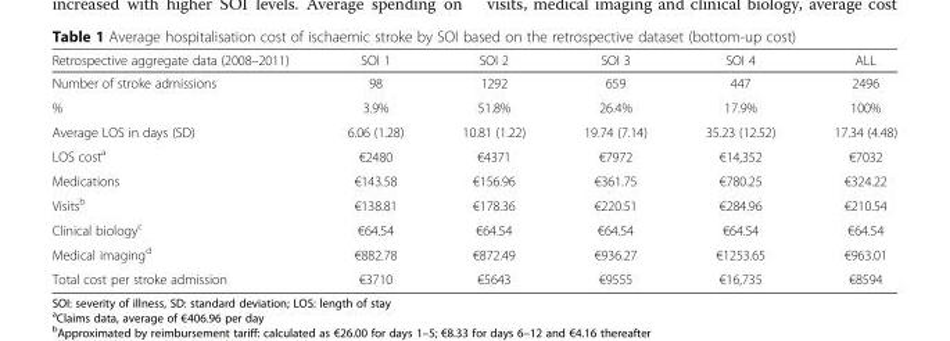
<table><thead><tr><td>Retrospective aggregate data (2008–2011)</td><td>SOI 1</td><td>SOI 2</td><td>SOI 3</td><td>SOI 4</td><td>ALL</td></tr></thead><tbody><tr><td>Number of stroke admissions</td><td>98</td><td>1292</td><td>659</td><td>447</td><td>2496</td></tr><tr><td>%</td><td>3.9%</td><td>51.8%</td><td>26.4%</td><td>17.9%</td><td>100%</td></tr><tr><td>Average LOS in days (SD)</td><td>6.06 (1.28)</td><td>10.81 (1.22)</td><td>19.74 (7.14)</td><td>35.23 (12.52)</td><td>17.34 (4.48)</td></tr><tr><td>LOS cost<sup>a</sup></td><td>€2480</td><td>€4371</td><td>€7972</td><td>€14,352</td><td>€7032</td></tr><tr><td>Medications</td><td>€143.58</td><td>€156.96</td><td>€361.75</td><td>€780.25</td><td>€324.22</td></tr><tr><td>Visits<sup>b</sup></td><td>€138.81</td><td>€178.36</td><td>€220.51</td><td>€284.96</td><td>€210.54</td></tr><tr><td>Clinical biology<sup>c</sup></td><td>€64.54</td><td>€64.54</td><td>€64.54</td><td>€64.54</td><td>€64.54</td></tr><tr><td>Medical imaging<sup>d</sup></td><td>€882.78</td><td>€872.49</td><td>€936.27</td><td>€1253.65</td><td>€963.01</td></tr><tr><td>Total cost per stroke admission</td><td>€3710</td><td>€5643</td><td>€9555</td><td>€16,735</td><td>€8594</td></tr></tbody></table>